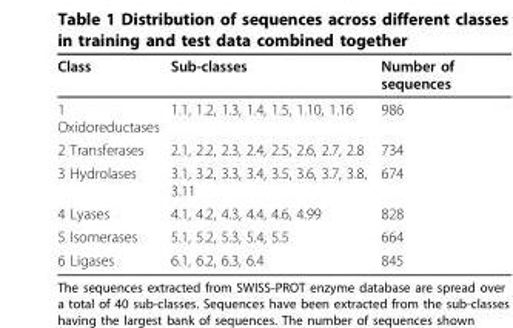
<table><thead><tr><td>Class</td><td>Sub-classes</td><td>Number of sequences</td></tr></thead><tbody><tr><td>1 Oxidoreductases</td><td>1.1, 1.2, 1.3, 1.4, 1.5, 1.10, 1.16</td><td>986</td></tr><tr><td>2 Transferases</td><td>2.1, 2.2, 2.3, 2.4, 2.5, 2.6, 2.7, 2.8</td><td>734</td></tr><tr><td>3 Hydrolases</td><td>3.1, 3.2, 3.3, 3.4, 3.5, 3.6, 3.7, 3.8, 3.11</td><td>674</td></tr><tr><td>4 Lyases</td><td>4.1, 4.2, 4.3, 4.4, 4.6, 4.99</td><td>828</td></tr><tr><td>5 Isomerases</td><td>5.1, 5.2, 5.3, 5.4, 5.5</td><td>664</td></tr><tr><td>6 Ligases</td><td>6.1, 6.2, 6.3, 6.4</td><td>845</td></tr></tbody></table>